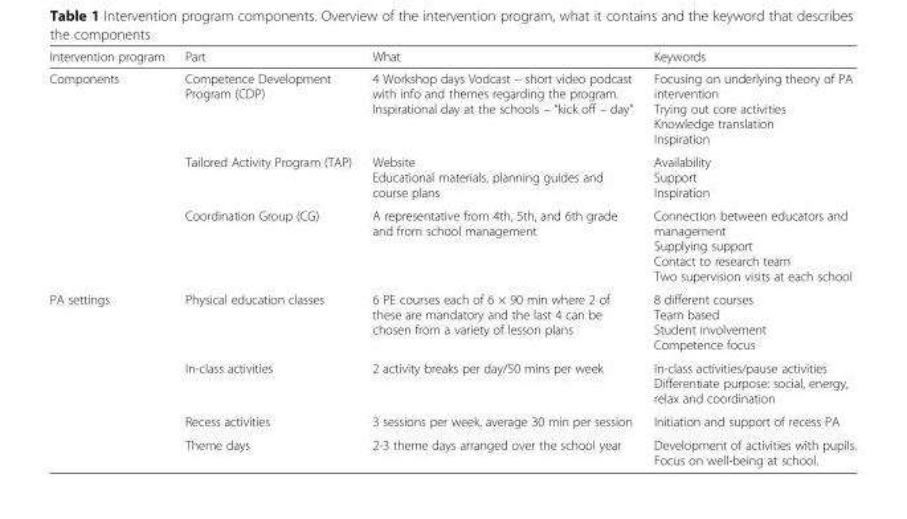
<table><thead><tr><td>Intervention program</td><td>Part</td><td>What</td><td>Keywords</td></tr></thead><tbody><tr><td rowspan="3">Components</td><td>Competence Development Program (CDP)</td><td>4 Workshop days Vodcast – short video podcast with info and themes regarding the program. Inspirational day at the schools – “kick off – day”</td><td>Focusing on underlying theory of PA intervention Trying out core activities Knowledge translation Inspiration</td></tr><tr><td>Tailored Activity Program (TAP)</td><td>Website Educational materials, planning guides and course plans</td><td>Availability Support Inspiration</td></tr><tr><td>Coordination Group (CG)</td><td>A representative from 4th, 5th, and 6th grade and from school management</td><td>Connection between educators and management Supplying support Contact to research team Two supervision visits at each school</td></tr><tr><td rowspan="4">PA settings</td><td>Physical education classes</td><td>6 PE courses each of 6 × 90 min where 2 of these are mandatory and the last 4 can be chosen from a variety of lesson plans</td><td>8 different courses Team based Student involvement Competence focus</td></tr><tr><td>In-class activities</td><td>2 activity breaks per day/50 mins per week</td><td>In-class activities/pause activities Differentiate purpose: social, energy, relax and coordination</td></tr><tr><td>Recess activities</td><td>3 sessions per week, average 30 min per session</td><td>Initiation and support of recess PA</td></tr><tr><td>Theme days</td><td>2-3 theme days arranged over the school year</td><td>Development of activities with pupils. Focus on well-being at school.</td></tr></tbody></table>